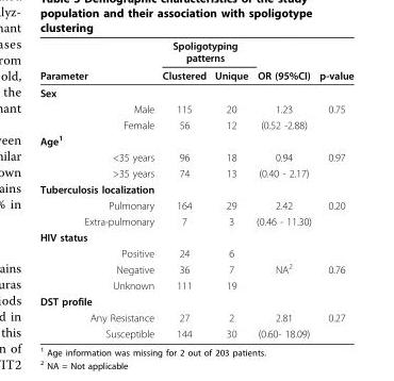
<table><thead><tr><td rowspan="2">Parameter</td><td colspan="2">Spoligotyping patterns</td><td rowspan="2">OR (95%CI)</td><td rowspan="2">p-value</td></tr><tr><td>Clustered</td><td>Unique</td></tr></thead><tbody><tr><td colspan="5">Sex</td></tr><tr><td>Male</td><td>115</td><td>20</td><td>1.23</td><td>0.75</td></tr><tr><td>Female</td><td>56</td><td>12</td><td>(0.52 -2.88)</td><td></td></tr><tr><td colspan="5">Age<sup>1</sup></td></tr><tr><td>&lt;35 years</td><td>96</td><td>18</td><td>0.94</td><td>0.97</td></tr><tr><td>&gt;35 years</td><td>74</td><td>13</td><td>(0.40 - 2.17)</td><td></td></tr><tr><td colspan="5">Tuberculosis localization</td></tr><tr><td>Pulmonary</td><td>164</td><td>29</td><td>2.42</td><td>0.20</td></tr><tr><td>Extra-pulmonary</td><td>7</td><td>3</td><td>(0.46 - 11.30)</td><td></td></tr><tr><td colspan="5">HIV status</td></tr><tr><td>Positive</td><td>24</td><td>6</td><td></td><td></td></tr><tr><td>Negative</td><td>36</td><td>7</td><td>NA<sup>2</sup></td><td>0.76</td></tr><tr><td>Unknown</td><td>111</td><td>19</td><td></td><td></td></tr><tr><td colspan="5">DST profile</td></tr><tr><td>Any Resistance</td><td>27</td><td>2</td><td>2.81</td><td>0.27</td></tr><tr><td>Susceptible</td><td>144</td><td>30</td><td>(0.60- 18.09)</td><td></td></tr></tbody></table>